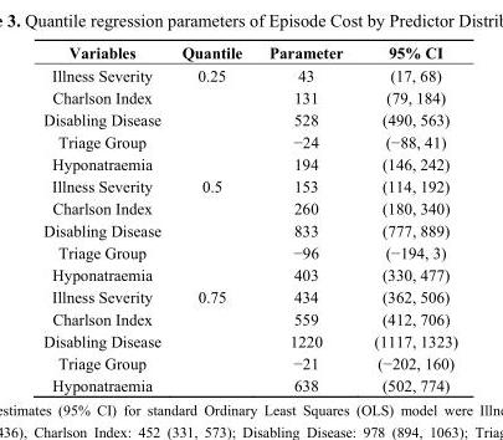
<table><thead><tr><td>Variables</td><td>Quantile</td><td>Parameter</td><td>95% CI</td></tr></thead><tbody><tr><td>Illness Severity</td><td>0.25</td><td>43</td><td>(17, 68)</td></tr><tr><td>Charlson Index</td><td></td><td>131</td><td>(79, 184)</td></tr><tr><td>Disabling Disease</td><td></td><td>528</td><td>(490, 563)</td></tr><tr><td>Triage Group</td><td></td><td>−24</td><td>(−88, 41)</td></tr><tr><td>Hyponatraemia</td><td></td><td>194</td><td>(146, 242)</td></tr><tr><td>Illness Severity</td><td>0.5</td><td>153</td><td>(114, 192)</td></tr><tr><td>Charlson Index</td><td></td><td>260</td><td>(180, 340)</td></tr><tr><td>Disabling Disease</td><td></td><td>833</td><td>(777, 889)</td></tr><tr><td>Triage Group</td><td></td><td>−96</td><td>(−194, 3)</td></tr><tr><td>Hyponatraemia</td><td></td><td>403</td><td>(330, 477)</td></tr><tr><td>Illness Severity</td><td>0.75</td><td>434</td><td>(362, 506)</td></tr><tr><td>Charlson Index</td><td></td><td>559</td><td>(412, 706)</td></tr><tr><td>Disabling Disease</td><td></td><td>1220</td><td>(1117, 1323)</td></tr><tr><td>Triage Group</td><td></td><td>−21</td><td>(−202, 160)</td></tr><tr><td>Hyponatraemia</td><td></td><td>638</td><td>(502, 774)</td></tr></tbody></table>